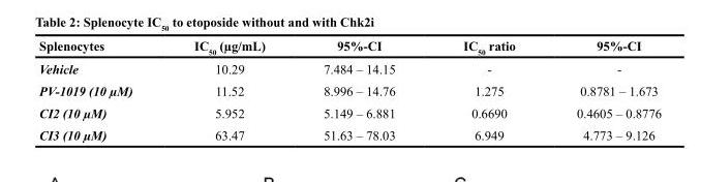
<table><thead><tr><td>Splenocytes</td><td>IC<sub>50</sub> (µg/mL)</td><td>95%-CI</td><td>IC<sub>50</sub> ratio</td><td>95%-CI</td></tr></thead><tbody><tr><td>Vehicle</td><td>10.29</td><td>7.484 – 14.15</td><td>-</td><td>-</td></tr><tr><td>PV-1019 (10 µM)</td><td>11.52</td><td>8.996 – 14.76</td><td>1.275</td><td>0.8781 – 1.673</td></tr><tr><td>CI2 (10 µM)</td><td>5.952</td><td>5.149 – 6.881</td><td>0.6690</td><td>0.4605 – 0.8776</td></tr><tr><td>CI3 (10 µM)</td><td>63.47</td><td>51.63 – 78.03</td><td>6.949</td><td>4.773 – 9.126</td></tr></tbody></table>